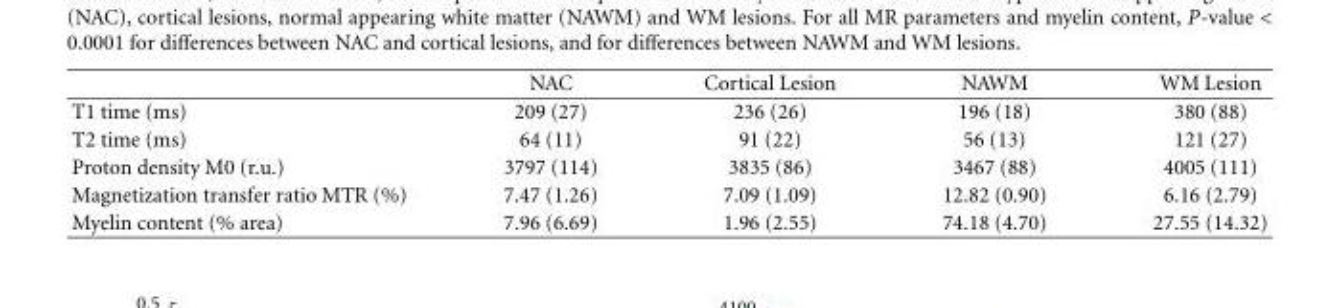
<table><thead><tr><td></td><td>NAC</td><td>Cortical Lesion</td><td>NAWM</td><td>WM Lesion</td></tr></thead><tbody><tr><td>T1 time (ms)</td><td>209 (27)</td><td>236 (26)</td><td>196 (18)</td><td>380 (88)</td></tr><tr><td>T2 time (ms)</td><td>64 (11)</td><td>91 (22)</td><td>56 (13)</td><td>121 (27)</td></tr><tr><td>Proton density M0 (r.u.)</td><td>3797 (114)</td><td>3835 (86)</td><td>3467 (88)</td><td>4005 (111)</td></tr><tr><td>Magnetization transfer ratio MTR (%)</td><td>7.47 (1.26)</td><td>7.09 (1.09)</td><td>12.82 (0.90)</td><td>6.16 (2.79)</td></tr><tr><td>Myelin content (% area)</td><td>7.96 (6.69)</td><td>1.96 (2.55)</td><td>74.18 (4.70)</td><td>27.55 (14.32)</td></tr></tbody></table>